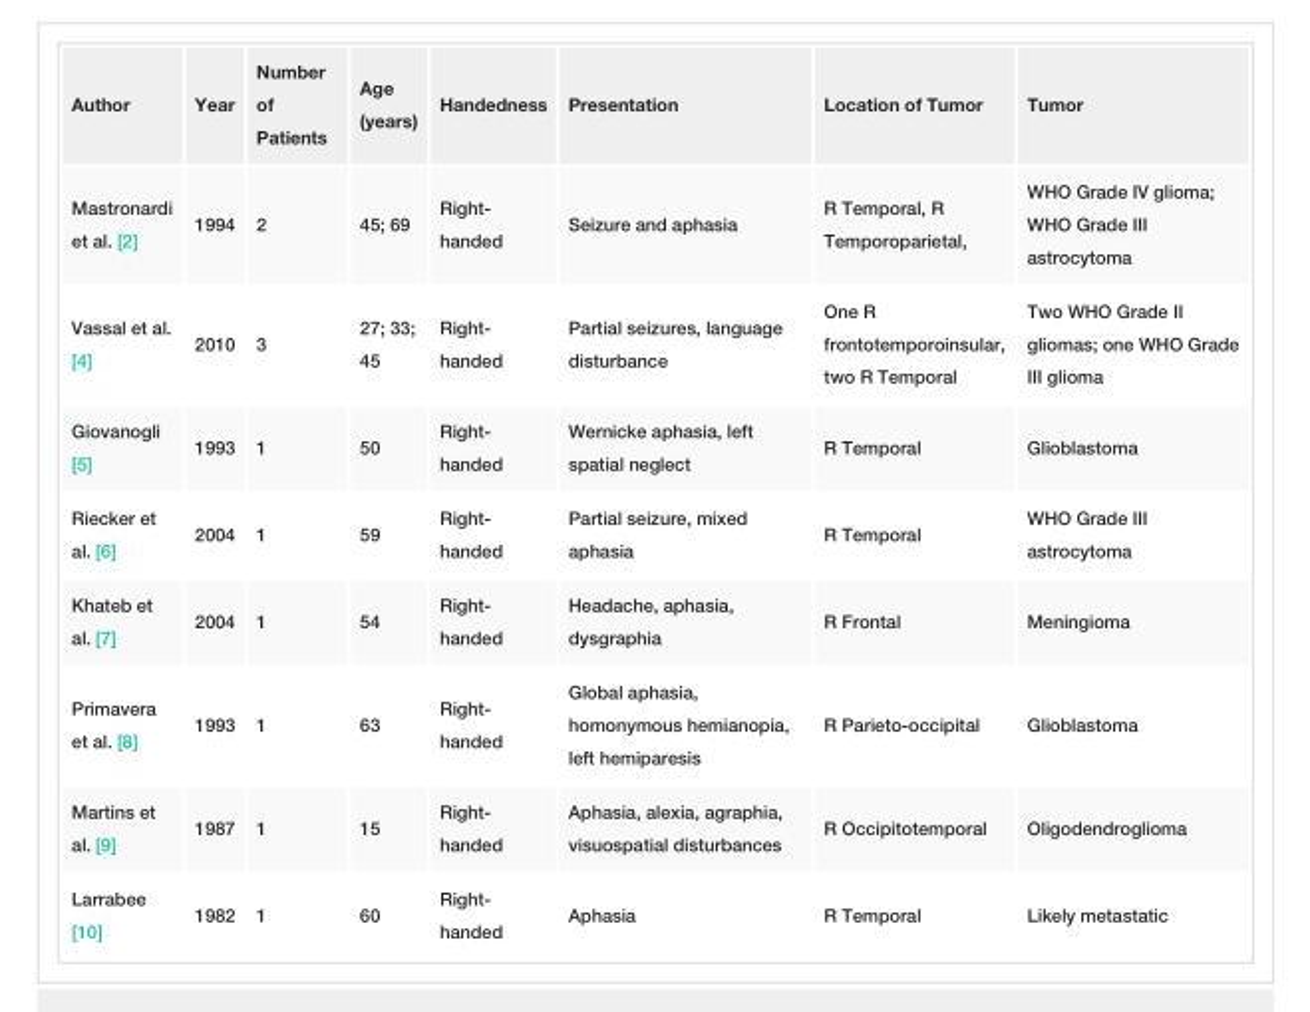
<table><tbody><tr><td>Author</td><td>Year</td><td>Number of Patients</td><td>Age (years)</td><td>Handedness</td><td>Presentation</td><td>Location of Tumor</td><td>Tumor</td></tr><tr><td>Mastronardi et al. [2]</td><td>1994</td><td>2</td><td>45; 69</td><td>Right- handed</td><td>Seizure and aphasia</td><td>R Temporal, R Temporoparietal,</td><td>WHO Grade IV glioma; WHO Grade III astrocytoma</td></tr><tr><td>Vassal et al. [4]</td><td>2010</td><td>3</td><td>27; 33; 45</td><td>Right- handed</td><td>Partial seizures, language disturbance</td><td>One R frontotemporoinsular, two R Temporal</td><td>Two WHO Grade II gliomas; one WHO Grade III glioma</td></tr><tr><td>Giovanogli [5]</td><td>1993</td><td>1</td><td>50</td><td>Right- handed</td><td>Wernicke aphasia, left spatial neglect</td><td>R Temporal</td><td>Glioblastoma</td></tr><tr><td>Riecker et al. [6]</td><td>2004</td><td>1</td><td>59</td><td>Right- handed</td><td>Partial seizure, mixed aphasia</td><td>R Temporal</td><td>WHO Grade III astrocytoma</td></tr><tr><td>Khateb et al. [7]</td><td>2004</td><td>1</td><td>54</td><td>Right- handed</td><td>Headache, aphasia, dysgraphia</td><td>R Frontal</td><td>Meningioma</td></tr><tr><td>Primavera et al. [8]</td><td>1993</td><td>1</td><td>63</td><td>Right- handed</td><td>Global aphasia, homonymous hemianopia, left hemiparesis</td><td>R Parieto-occipital</td><td>Glioblastoma</td></tr><tr><td>Martins et al. [9]</td><td>1987</td><td>1</td><td>15</td><td>Right- handed</td><td>Aphasia, alexia, agraphia, visuospatial disturbances</td><td>R Occipitotemporal</td><td>Oligodendroglioma</td></tr><tr><td>Larrabee [10]</td><td>1982</td><td>1</td><td>60</td><td>Right- handed</td><td>Aphasia</td><td>R Temporal</td><td>Likely metastatic</td></tr></tbody></table>